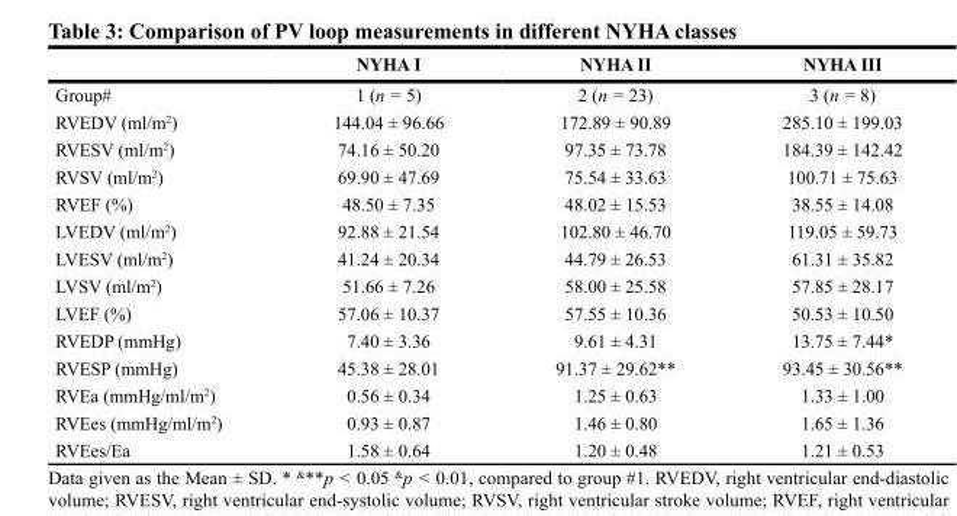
<table><thead><tr><td></td><td>NYHA I</td><td>NYHA II</td><td>NYHA III</td></tr></thead><tbody><tr><td>Group#</td><td>1 (n = 5)</td><td>2 (n = 23)</td><td>3 (n = 8)</td></tr><tr><td>RVEDV (ml/m<sup>2</sup>)</td><td>144.04 ± 96.66</td><td>172.89 ± 90.89</td><td>285.10 ± 199.03</td></tr><tr><td>RVESV (ml/m<sup>2</sup>)</td><td>74.16 ± 50.20</td><td>97.35 ± 73.78</td><td>184.39 ± 142.42</td></tr><tr><td>RVSV (ml/m<sup>2</sup>)</td><td>69.90 ± 47.69</td><td>75.54 ± 33.63</td><td>100.71 ± 75.63</td></tr><tr><td>RVEF (%)</td><td>48.50 ± 7.35</td><td>48.02 ± 15.53</td><td>38.55 ± 14.08</td></tr><tr><td>LVEDV (ml/m<sup>2</sup>)</td><td>92.88 ± 21.54</td><td>102.80 ± 46.70</td><td>119.05 ± 59.73</td></tr><tr><td>LVESV (ml/m<sup>2</sup>)</td><td>41.24 ± 20.34</td><td>44.79 ± 26.53</td><td>61.31 ± 35.82</td></tr><tr><td>LVSV (ml/m<sup>2</sup>)</td><td>51.66 ± 7.26</td><td>58.00 ± 25.58</td><td>57.85 ± 28.17</td></tr><tr><td>LVEF (%)</td><td>57.06 ± 10.37</td><td>57.55 ± 10.36</td><td>50.53 ± 10.50</td></tr><tr><td>RVEDP (mmHg)</td><td>7.40 ± 3.36</td><td>9.61 ± 4.31</td><td>13.75 ± 7.44*</td></tr><tr><td>RVESP (mmHg)</td><td>45.38 ± 28.01</td><td>91.37 ± 29.62**</td><td>93.45 ± 30.56**</td></tr><tr><td>RVEa (mmHg/ml/m<sup>2</sup>)</td><td>0.56 ± 0.34</td><td>1.25 ± 0.63</td><td>1.33 ± 1.00</td></tr><tr><td>RVEes (mmHg/ml/m<sup>2</sup>)</td><td>0.93 ± 0.87</td><td>1.46 ± 0.80</td><td>1.65 ± 1.36</td></tr><tr><td>RVEes/Ea</td><td>1.58 ± 0.64</td><td>1.20 ± 0.48</td><td>1.21 ± 0.53</td></tr></tbody></table>